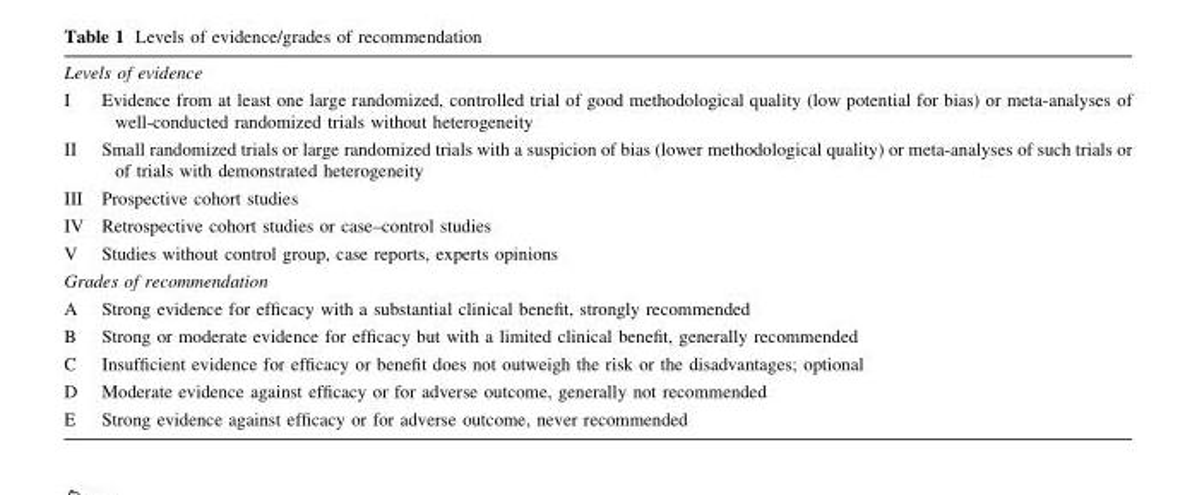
<table><tbody><tr><td colspan="2">Levels of evidence</td></tr><tr><td>I</td><td>Evidence from at least one large randomized, controlled trial of good methodological quality (low potential for bias) or meta-analyses of well-conducted randomized trials without heterogeneity</td></tr><tr><td>II</td><td>Small randomized trials or large randomized trials with a suspicion of bias (lower methodological quality) or meta-analyses of such trials or of trials with demonstrated heterogeneity</td></tr><tr><td>III</td><td>Prospective cohort studies</td></tr><tr><td>IV</td><td>Retrospective cohort studies or case–control studies</td></tr><tr><td>V</td><td>Studies without control group, case reports, experts opinions</td></tr><tr><td colspan="2">Grades of recommendation</td></tr><tr><td>A</td><td>Strong evidence for efficacy with a substantial clinical benefit, strongly recommended</td></tr><tr><td>B</td><td>Strong or moderate evidence for efficacy but with a limited clinical benefit, generally recommended</td></tr><tr><td>C</td><td>Insufficient evidence for efficacy or benefit does not outweigh the risk or the disadvantages; optional</td></tr><tr><td>D</td><td>Moderate evidence against efficacy or for adverse outcome, generally not recommended</td></tr><tr><td>E</td><td>Strong evidence against efficacy or for adverse outcome, never recommended</td></tr></tbody></table>